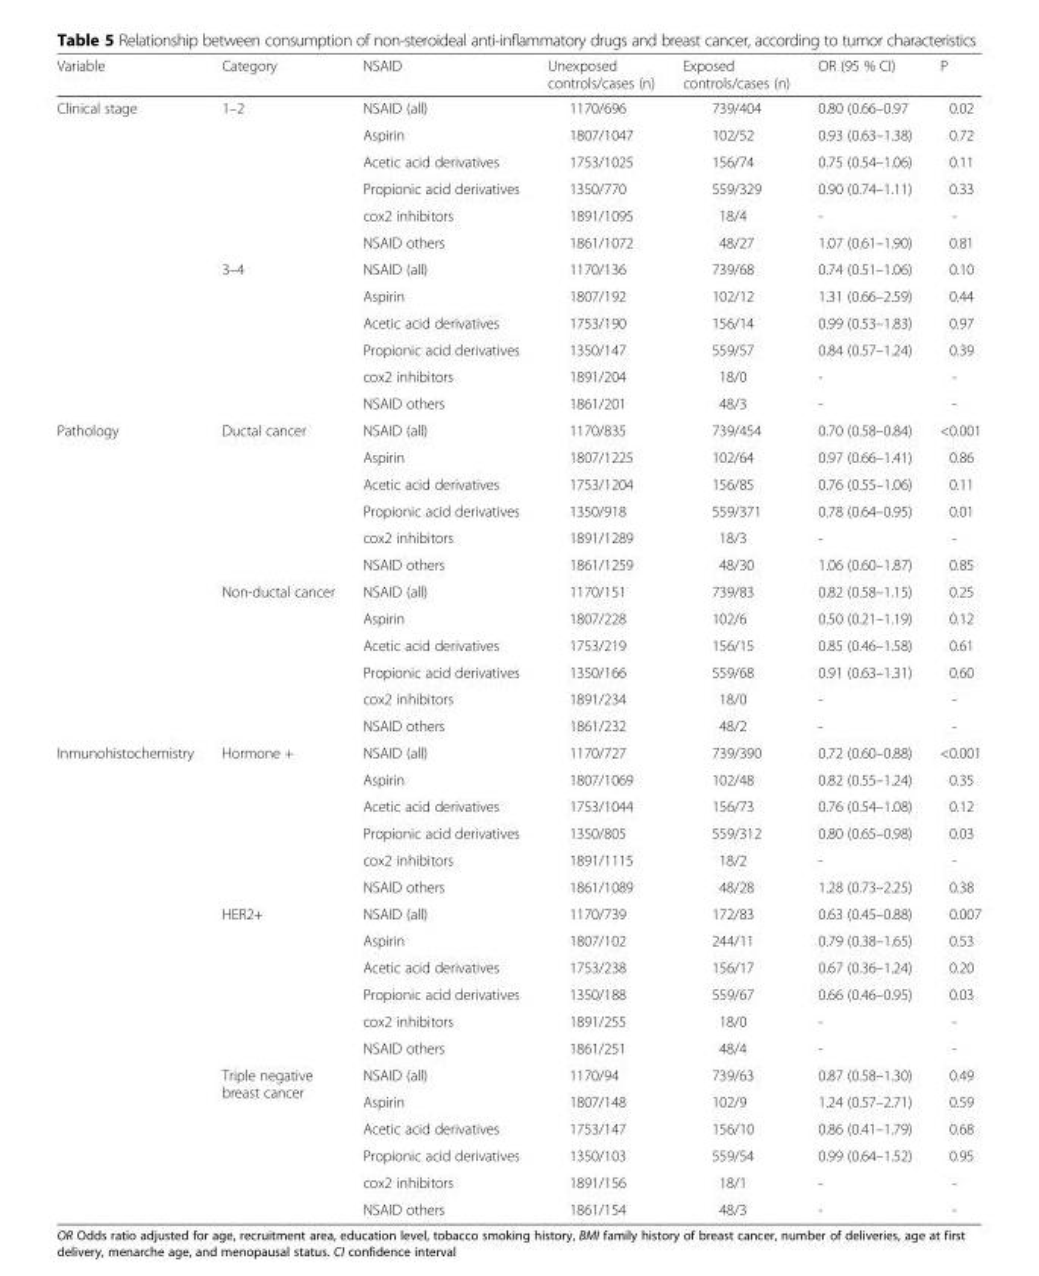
<table><thead><tr><td>Variable</td><td>Category</td><td>NSAID</td><td>Unexposed controls/cases (n)</td><td>Exposed controls/cases (n)</td><td>OR (95 % CI)</td><td>P</td></tr></thead><tbody><tr><td rowspan="12">Clinical stage</td><td rowspan="6">1–2</td><td>NSAID (all)</td><td>1170/696</td><td>739/404</td><td>0.80 (0.66–0.97</td><td>0.02</td></tr><tr><td>Aspirin</td><td>1807/1047</td><td>102/52</td><td>0.93 (0.63–1.38)</td><td>0.72</td></tr><tr><td>Acetic acid derivatives</td><td>1753/1025</td><td>156/74</td><td>0.75 (0.54–1.06)</td><td>0.11</td></tr><tr><td>Propionic acid derivatives</td><td>1350/770</td><td>559/329</td><td>0.90 (0.74–1.11)</td><td>0.33</td></tr><tr><td>cox2 inhibitors</td><td>1891/1095</td><td>18/4</td><td>-</td><td>-</td></tr><tr><td>NSAID others</td><td>1861/1072</td><td>48/27</td><td>1.07 (0.61–1.90)</td><td>0.81</td></tr><tr><td rowspan="6">3–4</td><td>NSAID (all)</td><td>1170/136</td><td>739/68</td><td>0.74 (0.51–1.06)</td><td>0.10</td></tr><tr><td>Aspirin</td><td>1807/192</td><td>102/12</td><td>1.31 (0.66–2.59)</td><td>0.44</td></tr><tr><td>Acetic acid derivatives</td><td>1753/190</td><td>156/14</td><td>0.99 (0.53–1.83)</td><td>0.97</td></tr><tr><td>Propionic acid derivatives</td><td>1350/147</td><td>559/57</td><td>0.84 (0.57–1.24)</td><td>0.39</td></tr><tr><td>cox2 inhibitors</td><td>1891/204</td><td>18/0</td><td>-</td><td>-</td></tr><tr><td>NSAID others</td><td>1861/201</td><td>48/3</td><td>-</td><td>-</td></tr><tr><td rowspan="12">Pathology</td><td rowspan="6">Ductal cancer</td><td>NSAID (all)</td><td>1170/835</td><td>739/454</td><td>0.70 (0.58–0.84)</td><td>&lt;0.001</td></tr><tr><td>Aspirin</td><td>1807/1225</td><td>102/64</td><td>0.97 (0.66–1.41)</td><td>0.86</td></tr><tr><td>Acetic acid derivatives</td><td>1753/1204</td><td>156/85</td><td>0.76 (0.55–1.06)</td><td>0.11</td></tr><tr><td>Propionic acid derivatives</td><td>1350/918</td><td>559/371</td><td>0.78 (0.64–0.95)</td><td>0.01</td></tr><tr><td>cox2 inhibitors</td><td>1891/1289</td><td>18/3</td><td>-</td><td>-</td></tr><tr><td>NSAID others</td><td>1861/1259</td><td>48/30</td><td>1.06 (0.60–1.87)</td><td>0.85</td></tr><tr><td rowspan="6">Non-ductal cancer</td><td>NSAID (all)</td><td>1170/151</td><td>739/83</td><td>0.82 (0.58–1.15)</td><td>0.25</td></tr><tr><td>Aspirin</td><td>1807/228</td><td>102/6</td><td>0.50 (0.21–1.19)</td><td>0.12</td></tr><tr><td>Acetic acid derivatives</td><td>1753/219</td><td>156/15</td><td>0.85 (0.46–1.58)</td><td>0.61</td></tr><tr><td>Propionic acid derivatives</td><td>1350/166</td><td>559/68</td><td>0.91 (0.63–1.31)</td><td>0.60</td></tr><tr><td>cox2 inhibitors</td><td>1891/234</td><td>18/0</td><td>-</td><td>-</td></tr><tr><td>NSAID others</td><td>1861/232</td><td>48/2</td><td>-</td><td>-</td></tr><tr><td rowspan="18">Inmunohistochemistry</td><td rowspan="6">Hormone +</td><td>NSAID (all)</td><td>1170/727</td><td>739/390</td><td>0.72 (0.60–0.88)</td><td>&lt;0.001</td></tr><tr><td>Aspirin</td><td>1807/1069</td><td>102/48</td><td>0.82 (0.55–1.24)</td><td>0.35</td></tr><tr><td>Acetic acid derivatives</td><td>1753/1044</td><td>156/73</td><td>0.76 (0.54–1.08)</td><td>0.12</td></tr><tr><td>Propionic acid derivatives</td><td>1350/805</td><td>559/312</td><td>0.80 (0.65–0.98)</td><td>0.03</td></tr><tr><td>cox2 inhibitors</td><td>1891/1115</td><td>18/2</td><td>-</td><td>-</td></tr><tr><td>NSAID others</td><td>1861/1089</td><td>48/28</td><td>1.28 (0.73–2.25)</td><td>0.38</td></tr><tr><td rowspan="6">HER2+</td><td>NSAID (all)</td><td>1170/739</td><td>172/83</td><td>0.63 (0.45–0.88)</td><td>0.007</td></tr><tr><td>Aspirin</td><td>1807/102</td><td>244/11</td><td>0.79 (0.38–1.65)</td><td>0.53</td></tr><tr><td>Acetic acid derivatives</td><td>1753/238</td><td>156/17</td><td>0.67 (0.36–1.24)</td><td>0.20</td></tr><tr><td>Propionic acid derivatives</td><td>1350/188</td><td>559/67</td><td>0.66 (0.46–0.95)</td><td>0.03</td></tr><tr><td>cox2 inhibitors</td><td>1891/255</td><td>18/0</td><td>-</td><td>-</td></tr><tr><td>NSAID others</td><td>1861/251</td><td>48/4</td><td>-</td><td>-</td></tr><tr><td rowspan="6">Triple negative breast cancer</td><td>NSAID (all)</td><td>1170/94</td><td>739/63</td><td>0.87 (0.58–1.30)</td><td>0.49</td></tr><tr><td>Aspirin</td><td>1807/148</td><td>102/9</td><td>1.24 (0.57–2.71)</td><td>0.59</td></tr><tr><td>Acetic acid derivatives</td><td>1753/147</td><td>156/10</td><td>0.86 (0.41–1.79)</td><td>0.68</td></tr><tr><td>Propionic acid derivatives</td><td>1350/103</td><td>559/54</td><td>0.99 (0.64–1.52)</td><td>0.95</td></tr><tr><td>cox2 inhibitors</td><td>1891/156</td><td>18/1</td><td>-</td><td>-</td></tr><tr><td>NSAID others</td><td>1861/154</td><td>48/3</td><td>-</td><td>-</td></tr></tbody></table>